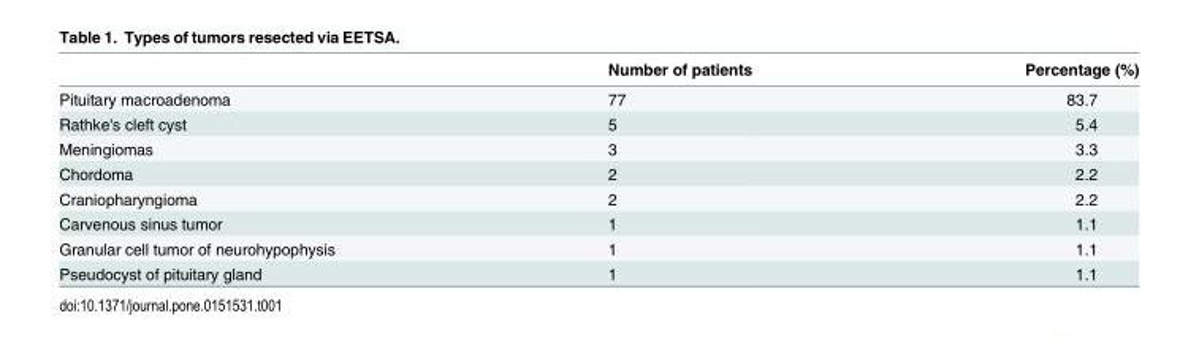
<table><thead><tr><td></td><td>Number of patients</td><td>Percentage (%)</td></tr></thead><tbody><tr><td>Pituitary macroadenoma</td><td>77</td><td>83.7</td></tr><tr><td>Rathke&#x27;s cleft cyst</td><td>5</td><td>5.4</td></tr><tr><td>Meningiomas</td><td>3</td><td>3.3</td></tr><tr><td>Chordoma</td><td>2</td><td>2.2</td></tr><tr><td>Craniopharyngioma</td><td>2</td><td>2.2</td></tr><tr><td>Carvenous sinus tumor</td><td>1</td><td>1.1</td></tr><tr><td>Granular cell tumor of neurohypophysis</td><td>1</td><td>1.1</td></tr><tr><td>Pseudocyst of pituitary gland</td><td>1</td><td>1.1</td></tr></tbody></table>